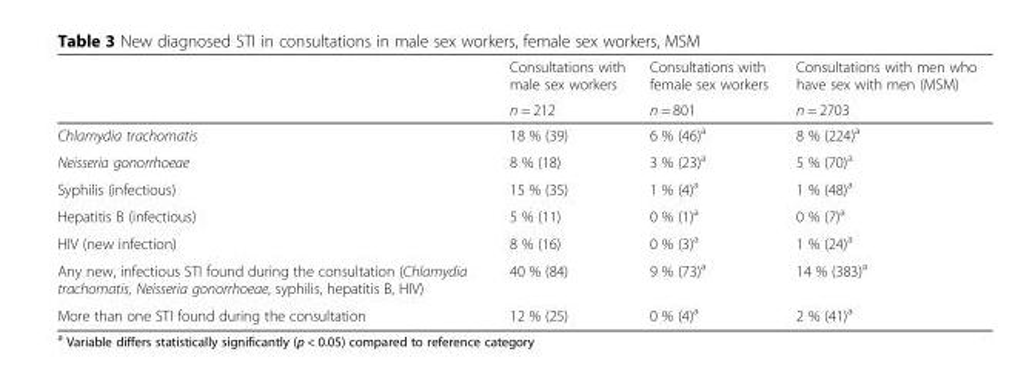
<table><thead><tr><td rowspan="2"></td><td rowspan="2">Consultations with male sex workers n = 212</td><td rowspan="2">Consultations with female sex workers n = 801</td><td rowspan="2">Consultations with men who have sex with men (MSM) n = 2703</td></tr><tr></tr></thead><tbody><tr><td>Chlamydia trachomatis</td><td>18 % (39)</td><td>6 % (46)<sup>a</sup></td><td>8 % (224)<sup>a</sup></td></tr><tr><td>Neisseria gonorrhoeae</td><td>8 % (18)</td><td>3 % (23)<sup>a</sup></td><td>5 % (70)<sup>a</sup></td></tr><tr><td>Syphilis (infectious)</td><td>15 % (35)</td><td>1 % (4)<sup>a</sup></td><td>1 % (48)<sup>a</sup></td></tr><tr><td>Hepatitis B (infectious)</td><td>5 % (11)</td><td>0 % (1)<sup>a</sup></td><td>0 % (7)<sup>a</sup></td></tr><tr><td>HIV (new infection)</td><td>8 % (16)</td><td>0 % (3)<sup>a</sup></td><td>1 % (24)<sup>a</sup></td></tr><tr><td>Any new, infectious STI found during the consultation (Chlamydia trachomatis, Neisseria gonorrhoeae, syphilis, hepatitis B, HIV)</td><td>40 % (84)</td><td>9 % (73)<sup>a</sup></td><td>14 % (383)<sup>a</sup></td></tr><tr><td>More than one STI found during the consultation</td><td>12 % (25)</td><td>0 % (4)<sup>a</sup></td><td>2 % (41)<sup>a</sup></td></tr></tbody></table>